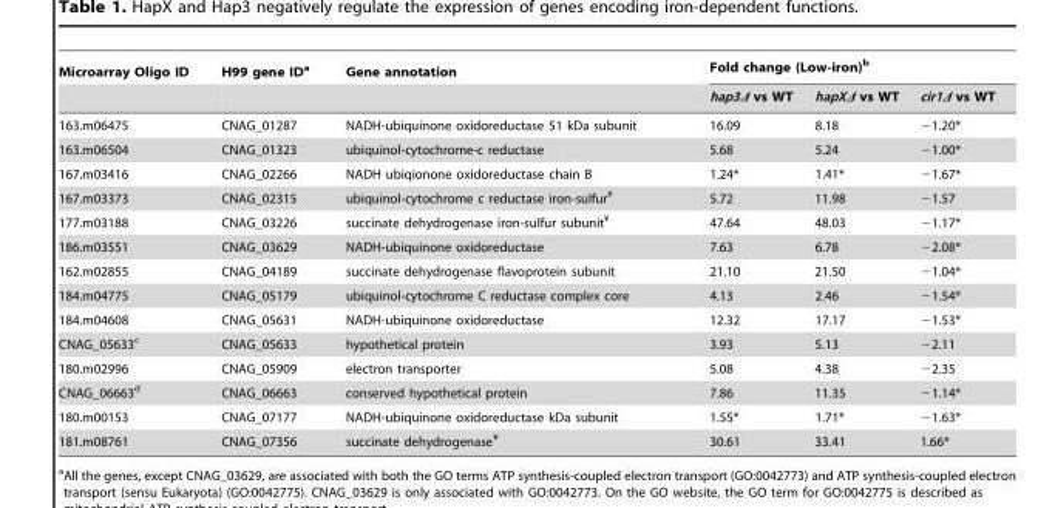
<table><thead><tr><td rowspan="2">Microarray Oligo ID</td><td rowspan="2">H99 gene ID<sup>a</sup></td><td rowspan="2">Gene annotation</td><td colspan="3">Fold change (Low-iron)<sup>b</sup></td></tr><tr><td>hap3Δ vs WT</td><td>hapXΔ vs WT</td><td>cir1Δ vs WT</td></tr></thead><tbody><tr><td>163.m06475</td><td>CNAG_01287</td><td>NADH-ubiquinone oxidoreductase 51 kDa subunit</td><td>16.09</td><td>8.18</td><td>−1.20*</td></tr><tr><td>163.m06504</td><td>CNAG_01323</td><td>ubiquinol-cytochrome-c reductase</td><td>5.68</td><td>5.24</td><td>−1.00*</td></tr><tr><td>167.m03416</td><td>CNAG_02266</td><td>NADH ubiqionone oxidoreductase chain B</td><td>1.24*</td><td>1.41*</td><td>−1.67*</td></tr><tr><td>167.m03373</td><td>CNAG_02315</td><td>ubiquinol-cytochrome c reductase iron-sulfur¥</td><td>5.72</td><td>11.98</td><td>−1.57</td></tr><tr><td>177.m03188</td><td>CNAG_03226</td><td>succinate dehydrogenase iron-sulfur subunit¥</td><td>47.64</td><td>48.03</td><td>−1.17*</td></tr><tr><td>186.m03551</td><td>CNAG_03629</td><td>NADH-ubiquinone oxidoreductase</td><td>7.63</td><td>6.78</td><td>−2.08*</td></tr><tr><td>162.m02855</td><td>CNAG_04189</td><td>succinate dehydrogenase flavoprotein subunit</td><td>21.10</td><td>21.50</td><td>−1.04*</td></tr><tr><td>184.m04775</td><td>CNAG_05179</td><td>ubiquinol-cytochrome C reductase complex core</td><td>4.13</td><td>2.46</td><td>−1.54*</td></tr><tr><td>184.m04608</td><td>CNAG_05631</td><td>NADH-ubiquinone oxidoreductase</td><td>12.32</td><td>17.17</td><td>−1.53*</td></tr><tr><td>CNAG_05633<sup>c</sup></td><td>CNAG_05633</td><td>hypothetical protein</td><td>3.93</td><td>5.13</td><td>−2.11</td></tr><tr><td>180.m02996</td><td>CNAG_05909</td><td>electron transporter</td><td>5.08</td><td>4.38</td><td>−2.35</td></tr><tr><td>CNAG_06663<sup>d</sup></td><td>CNAG_06663</td><td>conserved hypothetical protein</td><td>7.86</td><td>11.35</td><td>−1.14*</td></tr><tr><td>180.m00153</td><td>CNAG_07177</td><td>NADH-ubiquinone oxidoreductase kDa subunit</td><td>1.55*</td><td>1.71*</td><td>−1.63*</td></tr><tr><td>181.m08761</td><td>CNAG_07356</td><td>succinate dehydrogenase¥</td><td>30.61</td><td>33.41</td><td>1.66*</td></tr></tbody></table>